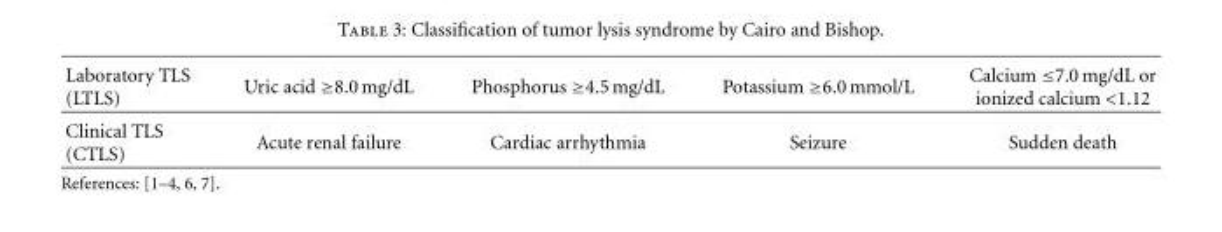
<table><thead><tr><td>Laboratory TLS (LTLS)</td><td>Uric acid ≥8.0 mg/dL</td><td>Phosphorus ≥4.5 mg/dL</td><td>Potassium ≥6.0 mmol/L</td><td>Calcium ≤7.0 mg/dL or ionized calcium &lt;1.12</td></tr></thead><tbody><tr><td>Clinical TLS (CTLS)</td><td>Acute renal failure</td><td>Cardiac arrhythmia</td><td>Seizure</td><td>Sudden death</td></tr></tbody></table>